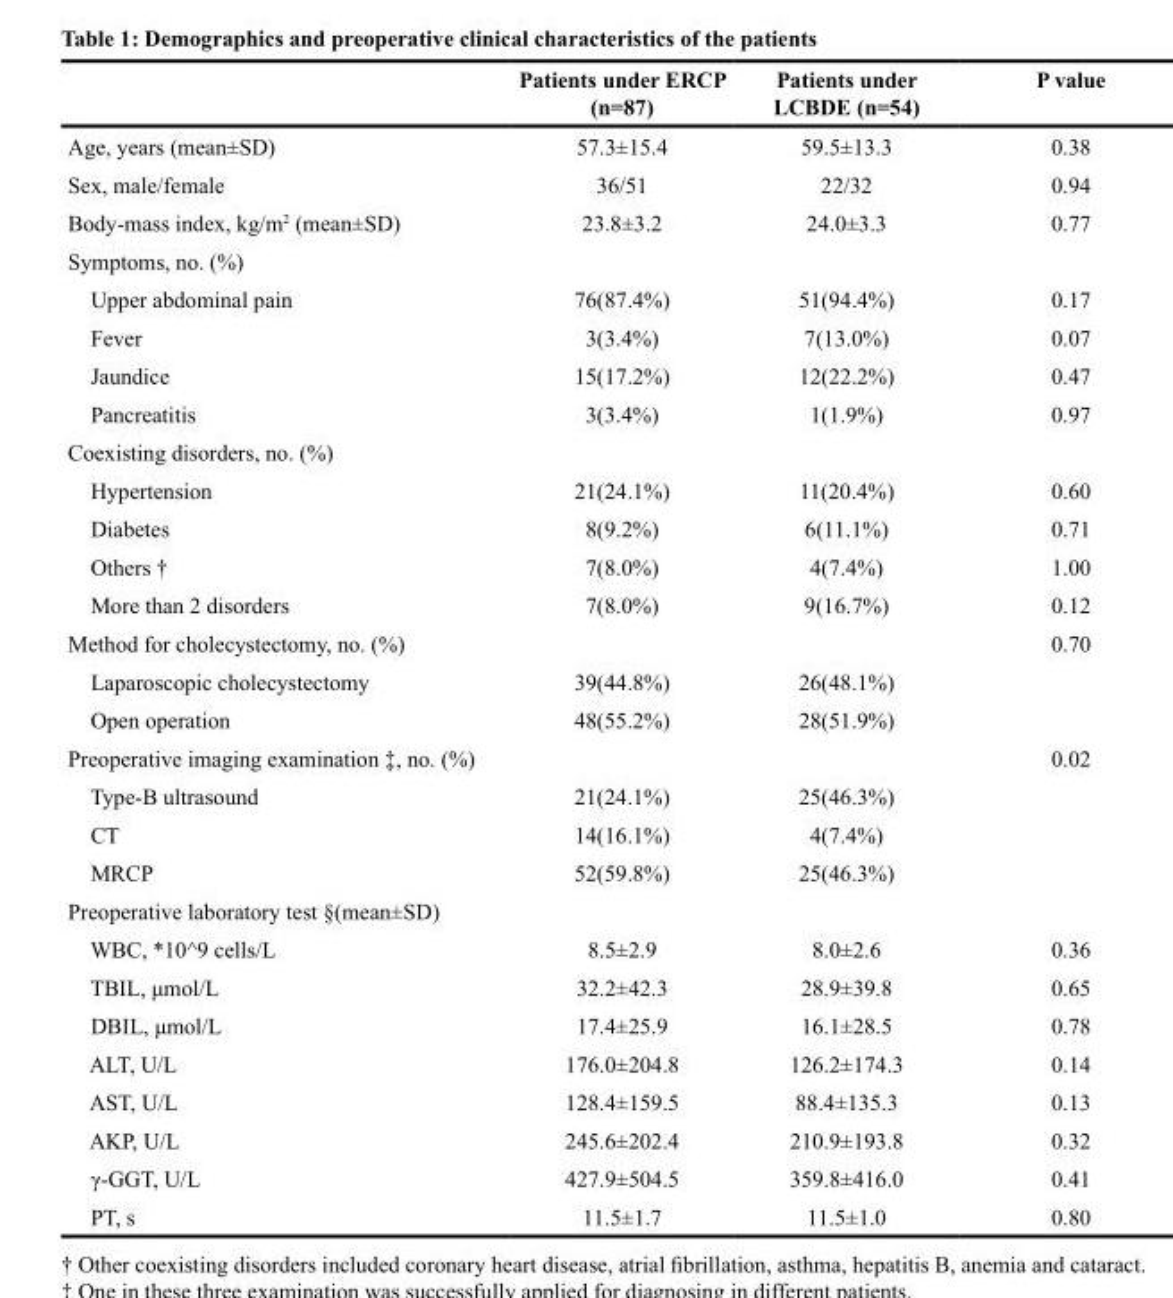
<table><thead><tr><td></td><td>Patients under ERCP (n=87)</td><td>Patients under LCBDE (n=54)</td><td>P value</td></tr></thead><tbody><tr><td>Age, years (mean±SD)</td><td>57.3±15.4</td><td>59.5±13.3</td><td>0.38</td></tr><tr><td>Sex, male/female</td><td>36/51</td><td>22/32</td><td>0.94</td></tr><tr><td>Body-mass index, kg/m<sup>2</sup> (mean±SD)</td><td>23.8±3.2</td><td>24.0±3.3</td><td>0.77</td></tr><tr><td colspan="4">Symptoms, no. (%)</td></tr><tr><td>Upper abdominal pain</td><td>76(87.4%)</td><td>51(94.4%)</td><td>0.17</td></tr><tr><td>Fever</td><td>3(3.4%)</td><td>7(13.0%)</td><td>0.07</td></tr><tr><td>Jaundice</td><td>15(17.2%)</td><td>12(22.2%)</td><td>0.47</td></tr><tr><td>Pancreatitis</td><td>3(3.4%)</td><td>1(1.9%)</td><td>0.97</td></tr><tr><td colspan="4">Coexisting disorders, no. (%)</td></tr><tr><td>Hypertension</td><td>21(24.1%)</td><td>11(20.4%)</td><td>0.60</td></tr><tr><td>Diabetes</td><td>8(9.2%)</td><td>6(11.1%)</td><td>0.71</td></tr><tr><td>Others †</td><td>7(8.0%)</td><td>4(7.4%)</td><td>1.00</td></tr><tr><td>More than 2 disorders</td><td>7(8.0%)</td><td>9(16.7%)</td><td>0.12</td></tr><tr><td>Method for cholecystectomy, no. (%)</td><td></td><td></td><td>0.70</td></tr><tr><td>Laparoscopic cholecystectomy</td><td>39(44.8%)</td><td>26(48.1%)</td><td></td></tr><tr><td>Open operation</td><td>48(55.2%)</td><td>28(51.9%)</td><td></td></tr><tr><td>Preoperative imaging examination ‡, no. (%)</td><td></td><td></td><td>0.02</td></tr><tr><td>Type-B ultrasound</td><td>21(24.1%)</td><td>25(46.3%)</td><td></td></tr><tr><td>CT</td><td>14(16.1%)</td><td>4(7.4%)</td><td></td></tr><tr><td>MRCP</td><td>52(59.8%)</td><td>25(46.3%)</td><td></td></tr><tr><td colspan="4">Preoperative laboratory test §(mean±SD)</td></tr><tr><td>WBC, *10^9 cells/L</td><td>8.5±2.9</td><td>8.0±2.6</td><td>0.36</td></tr><tr><td>TBIL, μmol/L</td><td>32.2±42.3</td><td>28.9±39.8</td><td>0.65</td></tr><tr><td>DBIL, μmol/L</td><td>17.4±25.9</td><td>16.1±28.5</td><td>0.78</td></tr><tr><td>ALT, U/L</td><td>176.0±204.8</td><td>126.2±174.3</td><td>0.14</td></tr><tr><td>AST, U/L</td><td>128.4±159.5</td><td>88.4±135.3</td><td>0.13</td></tr><tr><td>AKP, U/L</td><td>245.6±202.4</td><td>210.9±193.8</td><td>0.32</td></tr><tr><td>γ-GGT, U/L</td><td>427.9±504.5</td><td>359.8±416.0</td><td>0.41</td></tr><tr><td>PT, s</td><td>11.5±1.7</td><td>11.5±1.0</td><td>0.80</td></tr></tbody></table>